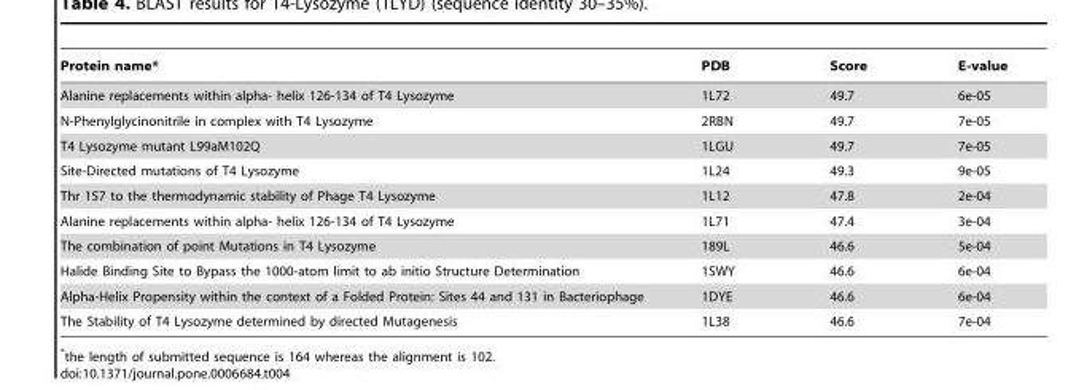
<table><thead><tr><td>Protein name*</td><td>PDB</td><td>Score</td><td>E-value</td></tr></thead><tbody><tr><td>Alanine replacements within alpha- helix 126-134 of T4 Lysozyme</td><td>1L72</td><td>49.7</td><td>6e-05</td></tr><tr><td>N-Phenylglycinonitrile in complex with T4 Lysozyme</td><td>2RBN</td><td>49.7</td><td>7e-05</td></tr><tr><td>T4 Lysozyme mutant L99aM102Q</td><td>1LGU</td><td>49.7</td><td>7e-05</td></tr><tr><td>Site-Directed mutations of T4 Lysozyme</td><td>1L24</td><td>49.3</td><td>9e-05</td></tr><tr><td>Thr 157 to the thermodynamic stability of Phage T4 Lysozyme</td><td>1L12</td><td>47.8</td><td>2e-04</td></tr><tr><td>Alanine replacements within alpha- helix 126-134 of T4 Lysozyme</td><td>1L71</td><td>47.4</td><td>3e-04</td></tr><tr><td>The combination of point Mutations in T4 Lysozyme</td><td>189L</td><td>46.6</td><td>5e-04</td></tr><tr><td>Halide Binding Site to Bypass the 1000-atom limit to ab initio Structure Determination</td><td>1SWY</td><td>46.6</td><td>6e-04</td></tr><tr><td>Alpha-Helix Propensity within the context of a Folded Protein: Sites 44 and 131 in Bacteriophage</td><td>1DYE</td><td>46.6</td><td>6e-04</td></tr><tr><td>The Stability of T4 Lysozyme determined by directed Mutagenesis</td><td>1L38</td><td>46.6</td><td>7e-04</td></tr></tbody></table>